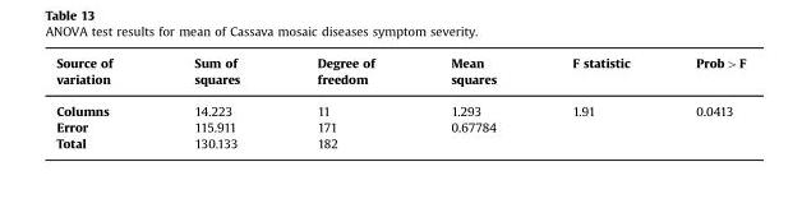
<table><thead><tr><td>Source of variation</td><td>Sum of squares</td><td>Degree of freedom</td><td>Mean squares</td><td>F statistic</td><td>Prob&gt;F</td></tr></thead><tbody><tr><td>Columns</td><td>14.223</td><td>11</td><td>1.293</td><td>1.91</td><td>0.0413</td></tr><tr><td>Error</td><td>115.911</td><td>171</td><td>0.67784</td><td></td><td></td></tr><tr><td>Total</td><td>130.133</td><td>182</td><td></td><td></td><td></td></tr></tbody></table>